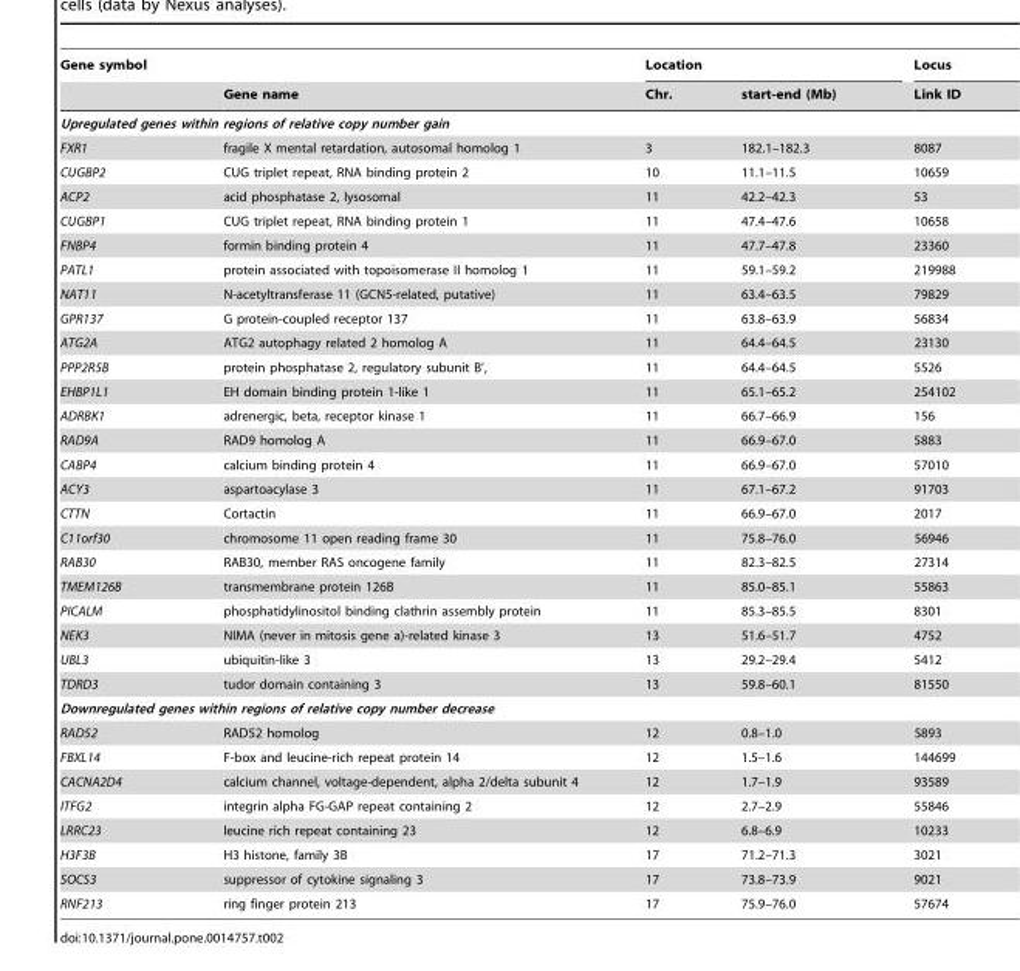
<table><thead><tr><td rowspan="2">Gene symbol</td><td rowspan="2">Gene name</td><td colspan="2">Location</td><td rowspan="2">Locus Link ID</td></tr><tr><td>Chr.</td><td>start-end (Mb)</td></tr></thead><tbody><tr><td colspan="5">Upregulated genes within regions of relative copy number gain</td></tr><tr><td>FXR1</td><td>fragile X mental retardation, autosomal homolog 1</td><td>3</td><td>182.1–182.3</td><td>8087</td></tr><tr><td>CUGBP2</td><td>CUG triplet repeat, RNA binding protein 2</td><td>10</td><td>11.1–11.5</td><td>10659</td></tr><tr><td>ACP2</td><td>acid phosphatase 2, lysosomal</td><td>11</td><td>42.2–42.3</td><td>53</td></tr><tr><td>CUGBP1</td><td>CUG triplet repeat, RNA binding protein 1</td><td>11</td><td>47.4–47.6</td><td>10658</td></tr><tr><td>FNBP4</td><td>formin binding protein 4</td><td>11</td><td>47.7–47.8</td><td>23360</td></tr><tr><td>PATL1</td><td>protein associated with topoisomerase II homolog 1</td><td>11</td><td>59.1–59.2</td><td>219988</td></tr><tr><td>NAT11</td><td>N-acetyltransferase 11 (GCN5-related, putative)</td><td>11</td><td>63.4–63.5</td><td>79829</td></tr><tr><td>GPR137</td><td>G protein-coupled receptor 137</td><td>11</td><td>63.8–63.9</td><td>56834</td></tr><tr><td>ATG2A</td><td>ATG2 autophagy related 2 homolog A</td><td>11</td><td>64.4–64.5</td><td>23130</td></tr><tr><td>PPP2R5B</td><td>protein phosphatase 2, regulatory subunit B’,</td><td>11</td><td>64.4–64.5</td><td>5526</td></tr><tr><td>EHBP1L1</td><td>EH domain binding protein 1-like 1</td><td>11</td><td>65.1–65.2</td><td>254102</td></tr><tr><td>ADRBK1</td><td>adrenergic, beta, receptor kinase 1</td><td>11</td><td>66.7–66.9</td><td>156</td></tr><tr><td>RAD9A</td><td>RAD9 homolog A</td><td>11</td><td>66.9–67.0</td><td>5883</td></tr><tr><td>CABP4</td><td>calcium binding protein 4</td><td>11</td><td>66.9–67.0</td><td>57010</td></tr><tr><td>ACY3</td><td>aspartoacylase 3</td><td>11</td><td>67.1–67.2</td><td>91703</td></tr><tr><td>CTTN</td><td>Cortactin</td><td>11</td><td>66.9–67.0</td><td>2017</td></tr><tr><td>C11orf30</td><td>chromosome 11 open reading frame 30</td><td>11</td><td>75.8–76.0</td><td>56946</td></tr><tr><td>RAB30</td><td>RAB30, member RAS oncogene family</td><td>11</td><td>82.3–82.5</td><td>27314</td></tr><tr><td>TMEM126B</td><td>transmembrane protein 126B</td><td>11</td><td>85.0–85.1</td><td>55863</td></tr><tr><td>PICALM</td><td>phosphatidylinositol binding clathrin assembly protein</td><td>11</td><td>85.3–85.5</td><td>8301</td></tr><tr><td>NEK3</td><td>NIMA (never in mitosis gene a)-related kinase 3</td><td>13</td><td>51.6–51.7</td><td>4752</td></tr><tr><td>UBL3</td><td>ubiquitin-like 3</td><td>13</td><td>29.2–29.4</td><td>5412</td></tr><tr><td>TDRD3</td><td>tudor domain containing 3</td><td>13</td><td>59.8–60.1</td><td>81550</td></tr><tr><td colspan="5">Downregulated genes within regions of relative copy number decrease</td></tr><tr><td>RAD52</td><td>RAD52 homolog</td><td>12</td><td>0.8–1.0</td><td>5893</td></tr><tr><td>FBXL14</td><td>F-box and leucine-rich repeat protein 14</td><td>12</td><td>1.5–1.6</td><td>144699</td></tr><tr><td>CACNA2D4</td><td>calcium channel, voltage-dependent, alpha 2/delta subunit 4</td><td>12</td><td>1.7–1.9</td><td>93589</td></tr><tr><td>ITFG2</td><td>integrin alpha FG-GAP repeat containing 2</td><td>12</td><td>2.7–2.9</td><td>55846</td></tr><tr><td>LRRC23</td><td>leucine rich repeat containing 23</td><td>12</td><td>6.8–6.9</td><td>10233</td></tr><tr><td>H3F3B</td><td>H3 histone, family 3B</td><td>17</td><td>71.2–71.3</td><td>3021</td></tr><tr><td>SOCS3</td><td>suppressor of cytokine signaling 3</td><td>17</td><td>73.8–73.9</td><td>9021</td></tr><tr><td>RNF213</td><td>ring finger protein 213</td><td>17</td><td>75.9–76.0</td><td>57674</td></tr></tbody></table>